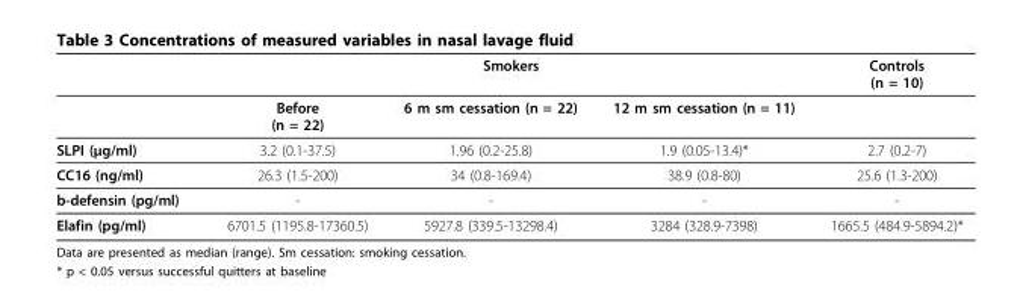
<table><thead><tr><td rowspan="2"></td><td colspan="3">Smokers</td><td rowspan="2">Controls (n = 10)</td></tr><tr><td>Before (n = 22)</td><td>6 m sm cessation (n = 22)</td><td>12 m sm cessation (n = 11)</td></tr></thead><tbody><tr><td>SLPI (μg/ml)</td><td>3.2 (0.1-37.5)</td><td>1.96 (0.2-25.8)</td><td>1.9 (0.05-13.4)*</td><td>2.7 (0.2-7)</td></tr><tr><td>CC16 (ng/ml)</td><td>26.3 (1.5-200)</td><td>34 (0.8-169.4)</td><td>38.9 (0.8-80)</td><td>25.6 (1.3-200)</td></tr><tr><td>b-defensin (pg/ml)</td><td>-</td><td>-</td><td>-</td><td>-</td></tr><tr><td>Elafin (pg/ml)</td><td>6701.5 (1195.8-17360.5)</td><td>5927.8 (339.5-13298.4)</td><td>3284 (328.9-7398)</td><td>1665.5 (484.9-5894.2)*</td></tr></tbody></table>